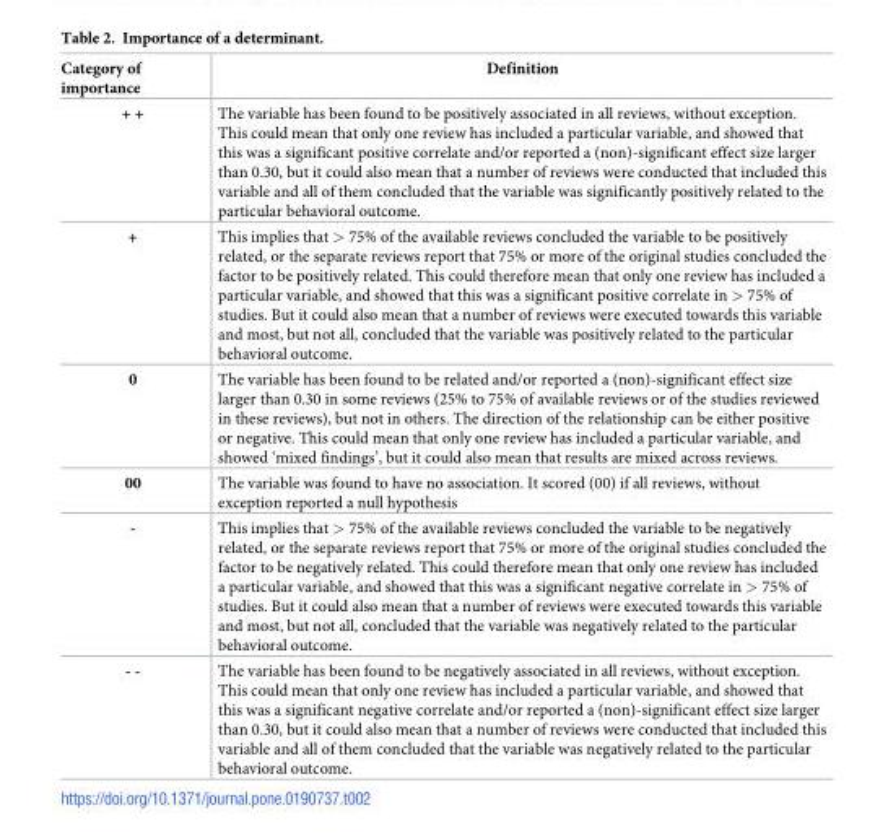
<table><thead><tr><td>Category of importance</td><td>Definition</td></tr></thead><tbody><tr><td>+ +</td><td>The variable has been found to be positively associated in all reviews, without exception. This could mean that only one review has included a particular variable, and showed that this was a significant positive correlate and/or reported a (non)-significant effect size larger than 0.30, but it could also mean that a number of reviews were conducted that included this variable and all of them concluded that the variable was significantly positively related to the particular behavioral outcome.</td></tr><tr><td>+</td><td>This implies that &gt; 75% of the available reviews concluded the variable to be positively related, or the separate reviews report that 75% or more of the original studies concluded the factor to be positively related. This could therefore mean that only one review has included a particular variable, and showed that this was a significant positive correlate in &gt; 75% of studies. But it could also mean that a number of reviews were executed towards this variable and most, but not all, concluded that the variable was positively related to the particular behavioral outcome.</td></tr><tr><td>0</td><td>The variable has been found to be related and/or reported a (non)-significant effect size larger than 0.30 in some reviews (25% to 75% of available reviews or of the studies reviewed in these reviews), but not in others. The direction of the relationship can be either positive or negative. This could mean that only one review has included a particular variable, and showed ‘mixed findings’, but it could also mean that results are mixed across reviews.</td></tr><tr><td>00</td><td>The variable was found to have no association. It scored (00) if all reviews, without exception reported a null hypothesis</td></tr><tr><td>-</td><td>This implies that &gt; 75% of the available reviews concluded the variable to be negatively related, or the separate reviews report that 75% or more of the original studies concluded the factor to be negatively related. This could therefore mean that only one review has included a particular variable, and showed that this was a significant negative correlate in &gt; 75% of studies. But it could also mean that a number of reviews were executed towards this variable and most, but not all, concluded that the variable was negatively related to the particular behavioral outcome.</td></tr><tr><td>- -</td><td>The variable has been found to be negatively associated in all reviews, without exception. This could mean that only one review has included a particular variable, and showed that this was a significant negative correlate and/or reported a (non)-significant effect size larger than 0.30, but it could also mean that a number of reviews were conducted that included this variable and all of them concluded that the variable was negatively related to the particular behavioral outcome.</td></tr></tbody></table>